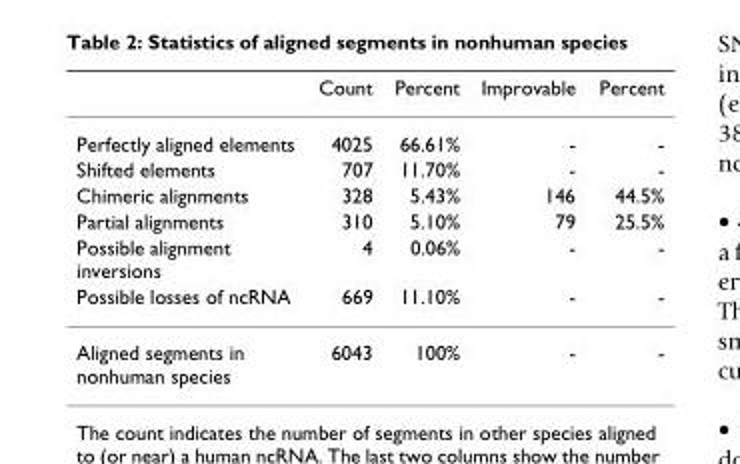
<table><thead><tr><td></td><td>Count</td><td>Percent</td><td>Improvable</td><td>Percent</td></tr></thead><tbody><tr><td>Perfectly aligned elements</td><td>4025</td><td>66.61%</td><td>-</td><td>-</td></tr><tr><td>Shifted elements</td><td>707</td><td>11.70%</td><td>-</td><td>-</td></tr><tr><td>Chimeric alignments</td><td>328</td><td>5.43%</td><td>146</td><td>44.5%</td></tr><tr><td>Partial alignments</td><td>310</td><td>5.10%</td><td>79</td><td>25.5%</td></tr><tr><td>Possible alignment inversions</td><td>4</td><td>0.06%</td><td>-</td><td>-</td></tr><tr><td>Possible losses of ncRNA</td><td>669</td><td>11.10%</td><td>-</td><td>-</td></tr><tr><td>Aligned segments in nonhuman species</td><td>6043</td><td>100%</td><td>-</td><td>-</td></tr></tbody></table>